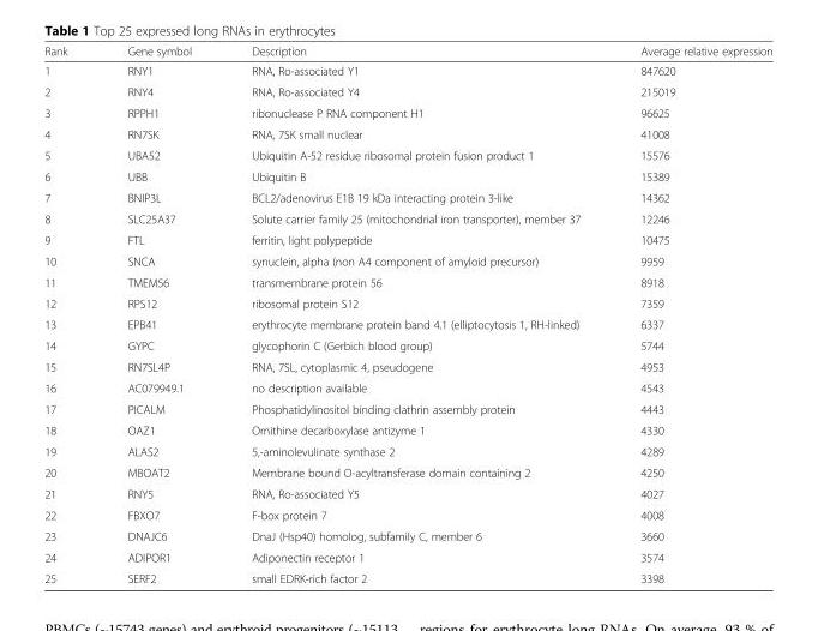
<table><thead><tr><td>Rank</td><td>Gene symbol</td><td>Description</td><td>Average relative expression</td></tr></thead><tbody><tr><td>1</td><td>RNY1</td><td>RNA, Ro-associated Y1</td><td>847620</td></tr><tr><td>2</td><td>RNY4</td><td>RNA, Ro-associated Y4</td><td>215019</td></tr><tr><td>3</td><td>RPPH1</td><td>ribonuclease P RNA component H1</td><td>96625</td></tr><tr><td>4</td><td>RN7SK</td><td>RNA, 7SK small nuclear</td><td>41008</td></tr><tr><td>5</td><td>UBA52</td><td>Ubiquitin A-52 residue ribosomal protein fusion product 1</td><td>15576</td></tr><tr><td>6</td><td>UBB</td><td>Ubiquitin B</td><td>15389</td></tr><tr><td>7</td><td>BNIP3L</td><td>BCL2/adenovirus E1B 19 kDa interacting protein 3-like</td><td>14362</td></tr><tr><td>8</td><td>SLC25A37</td><td>Solute carrier family 25 (mitochondrial iron transporter), member 37</td><td>12246</td></tr><tr><td>9</td><td>FTL</td><td>ferritin, light polypeptide</td><td>10475</td></tr><tr><td>10</td><td>SNCA</td><td>synuclein, alpha (non A4 component of amyloid precursor)</td><td>9959</td></tr><tr><td>11</td><td>TMEM56</td><td>transmembrane protein 56</td><td>8918</td></tr><tr><td>12</td><td>RPS12</td><td>ribosomal protein S12</td><td>7359</td></tr><tr><td>13</td><td>EPB41</td><td>erythrocyte membrane protein band 4.1 (elliptocytosis 1, RH-linked)</td><td>6337</td></tr><tr><td>14</td><td>GYPC</td><td>glycophorin C (Gerbich blood group)</td><td>5744</td></tr><tr><td>15</td><td>RN7SL4P</td><td>RNA, 7SL, cytoplasmic 4, pseudogene</td><td>4953</td></tr><tr><td>16</td><td>AC079949.1</td><td>no description available</td><td>4543</td></tr><tr><td>17</td><td>PICALM</td><td>Phosphatidylinositol binding clathrin assembly protein</td><td>4443</td></tr><tr><td>18</td><td>OAZ1</td><td>Ornithine decarboxylase antizyme 1</td><td>4330</td></tr><tr><td>19</td><td>ALAS2</td><td>5,-aminolevulinate synthase 2</td><td>4289</td></tr><tr><td>20</td><td>MBOAT2</td><td>Membrane bound O-acyltransferase domain containing 2</td><td>4250</td></tr><tr><td>21</td><td>RNY5</td><td>RNA, Ro-associated Y5</td><td>4027</td></tr><tr><td>22</td><td>FBXO7</td><td>F-box protein 7</td><td>4008</td></tr><tr><td>23</td><td>DNAJC6</td><td>DnaJ (Hsp40) homolog, subfamily C, member 6</td><td>3660</td></tr><tr><td>24</td><td>ADIPOR1</td><td>Adiponectin receptor 1</td><td>3574</td></tr><tr><td>25</td><td>SERF2</td><td>small EDRK-rich factor 2</td><td>3398</td></tr></tbody></table>